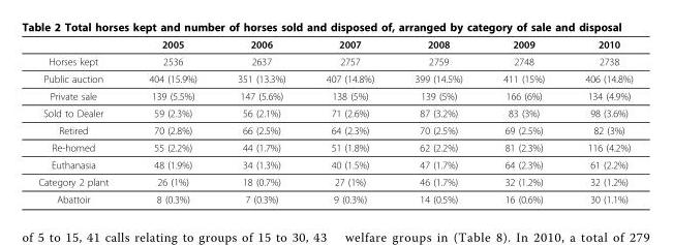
<table><thead><tr><td></td><td>2005</td><td>2006</td><td>2007</td><td>2008</td><td>2009</td><td>2010</td></tr></thead><tbody><tr><td>Horses kept</td><td>2536</td><td>2637</td><td>2757</td><td>2759</td><td>2748</td><td>2738</td></tr><tr><td>Public auction</td><td>404 (15.9%)</td><td>351 (13.3%)</td><td>407 (14.8%)</td><td>399 (14.5%)</td><td>411 (15%)</td><td>406 (14.8%)</td></tr><tr><td>Private sale</td><td>139 (5.5%)</td><td>147 (5.6%)</td><td>138 (5%)</td><td>139 (5%)</td><td>166 (6%)</td><td>134 (4.9%)</td></tr><tr><td>Sold to Dealer</td><td>59 (2.3%)</td><td>56 (2.1%)</td><td>71 (2.6%)</td><td>87 (3.2%)</td><td>83 (3%)</td><td>98 (3.6%)</td></tr><tr><td>Retired</td><td>70 (2.8%)</td><td>66 (2.5%)</td><td>64 (2.3%)</td><td>70 (2.5%)</td><td>69 (2.5%)</td><td>82 (3%)</td></tr><tr><td>Re-homed</td><td>55 (2.2%)</td><td>44 (1.7%)</td><td>51 (1.8%)</td><td>62 (2.2%)</td><td>81 (2.3%)</td><td>116 (4.2%)</td></tr><tr><td>Euthanasia</td><td>48 (1.9%)</td><td>34 (1.3%)</td><td>40 (1.5%)</td><td>47 (1.7%)</td><td>64 (2.3%)</td><td>61 (2.2%)</td></tr><tr><td>Category 2 plant</td><td>26 (1%)</td><td>18 (0.7%)</td><td>27 (1%)</td><td>46 (1.7%)</td><td>32 (1.2%)</td><td>32 (1.2%)</td></tr><tr><td>Abattoir</td><td>8 (0.3%)</td><td>7 (0.3%)</td><td>9 (0.3%)</td><td>14 (0.5%)</td><td>16 (0.6%)</td><td>30 (1.1%)</td></tr></tbody></table>